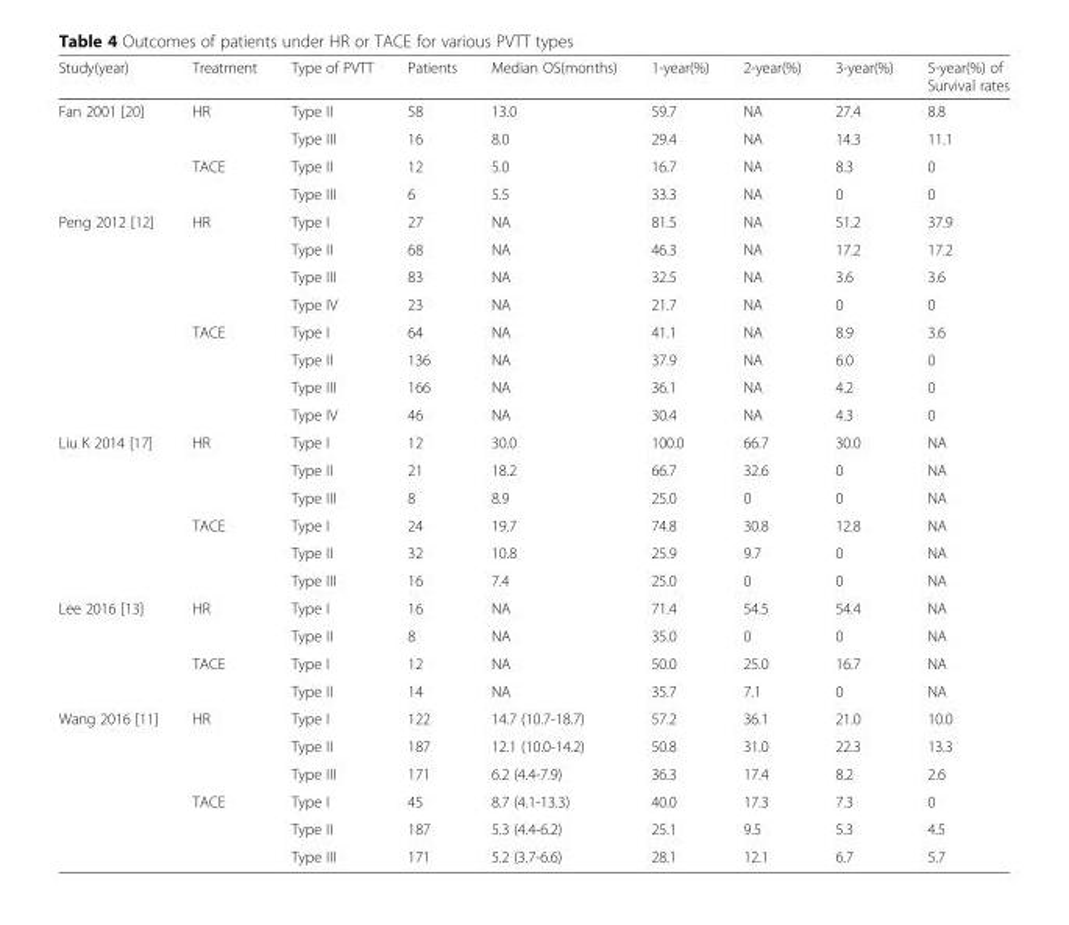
<table><thead><tr><td>Study(year)</td><td>Treatment</td><td>Type of PVTT</td><td>Patients</td><td>Median OS(months)</td><td>1-year(%)</td><td>2-year(%)</td><td>3-year(%)</td><td>5-year(%) of Survival rates</td></tr></thead><tbody><tr><td rowspan="4">Fan 2001 [20]</td><td>HR</td><td>Type II</td><td>58</td><td>13.0</td><td>59.7</td><td>NA</td><td>27.4</td><td>8.8</td></tr><tr><td></td><td>Type III</td><td>16</td><td>8.0</td><td>29.4</td><td>NA</td><td>14.3</td><td>11.1</td></tr><tr><td>TACE</td><td>Type II</td><td>12</td><td>5.0</td><td>16.7</td><td>NA</td><td>8.3</td><td>0</td></tr><tr><td></td><td>Type III</td><td>6</td><td>5.5</td><td>33.3</td><td>NA</td><td>0</td><td>0</td></tr><tr><td rowspan="8">Peng 2012 [12]</td><td>HR</td><td>Type I</td><td>27</td><td>NA</td><td>81.5</td><td>NA</td><td>51.2</td><td>37.9</td></tr><tr><td></td><td>Type II</td><td>68</td><td>NA</td><td>46.3</td><td>NA</td><td>17.2</td><td>17.2</td></tr><tr><td></td><td>Type III</td><td>83</td><td>NA</td><td>32.5</td><td>NA</td><td>3.6</td><td>3.6</td></tr><tr><td></td><td>Type IV</td><td>23</td><td>NA</td><td>21.7</td><td>NA</td><td>0</td><td>0</td></tr><tr><td>TACE</td><td>Type I</td><td>64</td><td>NA</td><td>41.1</td><td>NA</td><td>8.9</td><td>3.6</td></tr><tr><td></td><td>Type II</td><td>136</td><td>NA</td><td>37.9</td><td>NA</td><td>6.0</td><td>0</td></tr><tr><td></td><td>Type III</td><td>166</td><td>NA</td><td>36.1</td><td>NA</td><td>4.2</td><td>0</td></tr><tr><td></td><td>Type IV</td><td>46</td><td>NA</td><td>30.4</td><td>NA</td><td>4.3</td><td>0</td></tr><tr><td rowspan="6">Liu K 2014 [17]</td><td>HR</td><td>Type I</td><td>12</td><td>30.0</td><td>100.0</td><td>66.7</td><td>30.0</td><td>NA</td></tr><tr><td></td><td>Type II</td><td>21</td><td>18.2</td><td>66.7</td><td>32.6</td><td>0</td><td>NA</td></tr><tr><td></td><td>Type III</td><td>8</td><td>8.9</td><td>25.0</td><td>0</td><td>0</td><td>NA</td></tr><tr><td>TACE</td><td>Type I</td><td>24</td><td>19.7</td><td>74.8</td><td>30.8</td><td>12.8</td><td>NA</td></tr><tr><td></td><td>Type II</td><td>32</td><td>10.8</td><td>25.9</td><td>9.7</td><td>0</td><td>NA</td></tr><tr><td></td><td>Type III</td><td>16</td><td>7.4</td><td>25.0</td><td>0</td><td>0</td><td>NA</td></tr><tr><td rowspan="4">Lee 2016 [13]</td><td>HR</td><td>Type I</td><td>16</td><td>NA</td><td>71.4</td><td>54.5</td><td>54.4</td><td>NA</td></tr><tr><td></td><td>Type II</td><td>8</td><td>NA</td><td>35.0</td><td>0</td><td>0</td><td>NA</td></tr><tr><td>TACE</td><td>Type I</td><td>12</td><td>NA</td><td>50.0</td><td>25.0</td><td>16.7</td><td>NA</td></tr><tr><td></td><td>Type II</td><td>14</td><td>NA</td><td>35.7</td><td>7.1</td><td>0</td><td>NA</td></tr><tr><td rowspan="6">Wang 2016 [11]</td><td>HR</td><td>Type I</td><td>122</td><td>14.7 (10.7-18.7)</td><td>57.2</td><td>36.1</td><td>21.0</td><td>10.0</td></tr><tr><td></td><td>Type II</td><td>187</td><td>12.1 (10.0-14.2)</td><td>50.8</td><td>31.0</td><td>22.3</td><td>13.3</td></tr><tr><td></td><td>Type III</td><td>171</td><td>6.2 (4.4-7.9)</td><td>36.3</td><td>17.4</td><td>8.2</td><td>2.6</td></tr><tr><td>TACE</td><td>Type I</td><td>45</td><td>8.7 (4.1-13.3)</td><td>40.0</td><td>17.3</td><td>7.3</td><td>0</td></tr><tr><td></td><td>Type II</td><td>187</td><td>5.3 (4.4-6.2)</td><td>25.1</td><td>9.5</td><td>5.3</td><td>4.5</td></tr><tr><td></td><td>Type III</td><td>171</td><td>5.2 (3.7-6.6)</td><td>28.1</td><td>12.1</td><td>6.7</td><td>5.7</td></tr></tbody></table>